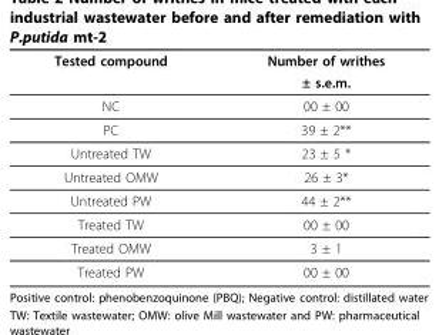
<table><thead><tr><td rowspan="2">Tested compound</td><td rowspan="2">Number of writhes ± s.e.m.</td></tr><tr></tr></thead><tbody><tr><td>NC</td><td>00 ± 00</td></tr><tr><td>PC</td><td>39 ± 2**</td></tr><tr><td>Untreated TW</td><td>23 ± 5 *</td></tr><tr><td>Untreated OMW</td><td>26 ± 3*</td></tr><tr><td>Untreated PW</td><td>44 ± 2**</td></tr><tr><td>Treated TW</td><td>00 ± 00</td></tr><tr><td>Treated OMW</td><td>3 ± 1</td></tr><tr><td>Treated PW</td><td>00 ± 00</td></tr></tbody></table>